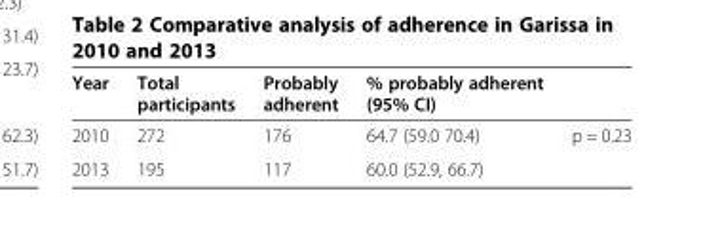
<table><thead><tr><td>Year</td><td>Total participants</td><td>Probably adherent</td><td>% probably adherent (95% CI)</td><td></td></tr></thead><tbody><tr><td>2010</td><td>272</td><td>176</td><td>64.7 (59.0 70.4)</td><td rowspan="2">p = 0.23</td></tr><tr><td>2013</td><td>195</td><td>117</td><td>60.0 (52.9, 66.7)</td></tr></tbody></table>